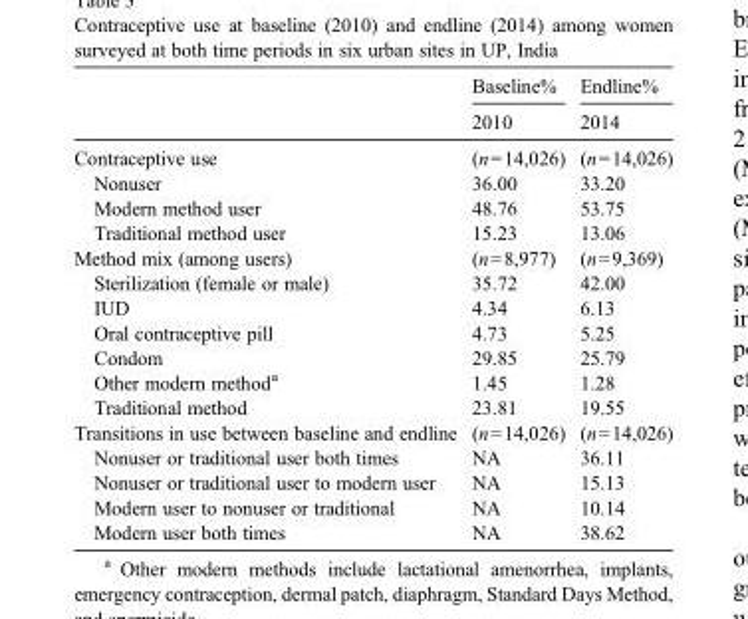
<table><thead><tr><td rowspan="2"></td><td rowspan="2">Baseline% 2010</td><td rowspan="2">Endline% 2014</td></tr><tr></tr></thead><tbody><tr><td>Contraceptive use</td><td>(n=14,026)</td><td>(n=14,026)</td></tr><tr><td>Nonuser</td><td>36.00</td><td>33.20</td></tr><tr><td>Modern method user</td><td>48.76</td><td>53.75</td></tr><tr><td>Traditional method user</td><td>15.23</td><td>13.06</td></tr><tr><td>Method mix (among users)</td><td>(n=8,977)</td><td>(n=9,369)</td></tr><tr><td>Sterilization (female or male)</td><td>35.72</td><td>42.00</td></tr><tr><td>IUD</td><td>4.34</td><td>6.13</td></tr><tr><td>Oral contraceptive pill</td><td>4.73</td><td>5.25</td></tr><tr><td>Condom</td><td>29.85</td><td>25.79</td></tr><tr><td>Other modern method<sup>a</sup></td><td>1.45</td><td>1.28</td></tr><tr><td>Traditional method</td><td>23.81</td><td>19.55</td></tr><tr><td>Transitions in use between baseline and endline</td><td>(n=14,026)</td><td>(n=14,026)</td></tr><tr><td>Nonuser or traditional user both times</td><td>NA</td><td>36.11</td></tr><tr><td>Nonuser or traditional user to modern user</td><td>NA</td><td>15.13</td></tr><tr><td>Modern user to nonuser or traditional</td><td>NA</td><td>10.14</td></tr><tr><td>Modern user both times</td><td>NA</td><td>38.62</td></tr></tbody></table>